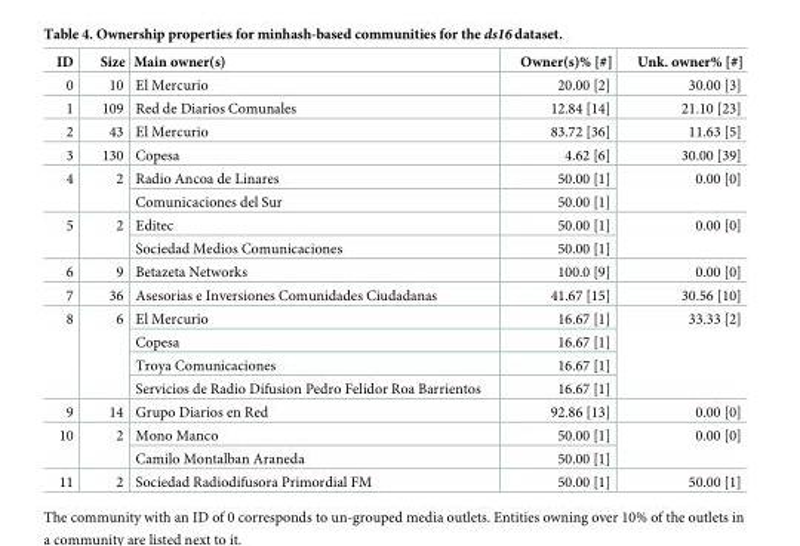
<table><thead><tr><td>ID</td><td>Size</td><td>Main owner(s)</td><td>Owner(s)% [#]</td><td>Unk. owner% [#]</td></tr></thead><tbody><tr><td>0</td><td>10</td><td>El Mercurio</td><td>20.00 [2]</td><td>30.00 [3]</td></tr><tr><td>1</td><td>109</td><td>Red de Diarios Comunales</td><td>12.84 [14]</td><td>21.10 [23]</td></tr><tr><td>2</td><td>43</td><td>El Mercurio</td><td>83.72 [36]</td><td>11.63 [5]</td></tr><tr><td>3</td><td>130</td><td>Copesa</td><td>4.62 [6]</td><td>30.00 [39]</td></tr><tr><td rowspan="2">4</td><td rowspan="2">2</td><td>Radio Ancoa de Linares</td><td>50.00 [1]</td><td rowspan="2">0.00 [0]</td></tr><tr><td>Comunicaciones del Sur</td><td>50.00 [1]</td></tr><tr><td rowspan="2">5</td><td rowspan="2">2</td><td>Editec</td><td>50.00 [1]</td><td rowspan="2">0.00 [0]</td></tr><tr><td>Sociedad Medios Comunicaciones</td><td>50.00 [1]</td></tr><tr><td>6</td><td>9</td><td>Betazeta Networks</td><td>100.0 [9]</td><td>0.00 [0]</td></tr><tr><td>7</td><td>36</td><td>Asesorias e Inversiones Comunidades Ciudadanas</td><td>41.67 [15]</td><td>30.56 [10]</td></tr><tr><td rowspan="4">8</td><td rowspan="4">6</td><td>El Mercurio</td><td>16.67 [1]</td><td rowspan="4">33.33 [2]</td></tr><tr><td>Copesa</td><td>16.67 [1]</td></tr><tr><td>Troya Comunicaciones</td><td>16.67 [1]</td></tr><tr><td>Servicios de Radio Difusion Pedro Felidor Roa Barrientos</td><td>16.67 [1]</td></tr><tr><td>9</td><td>14</td><td>Grupo Diarios en Red</td><td>92.86 [13]</td><td>0.00 [0]</td></tr><tr><td rowspan="2">10</td><td rowspan="2">2</td><td>Mono Manco</td><td>50.00 [1]</td><td rowspan="2">0.00 [0]</td></tr><tr><td>Camilo Montalban Araneda</td><td>50.00 [1]</td></tr><tr><td>11</td><td>2</td><td>Sociedad Radiodifusora Primordial FM</td><td>50.00 [1]</td><td>50.00 [1]</td></tr></tbody></table>